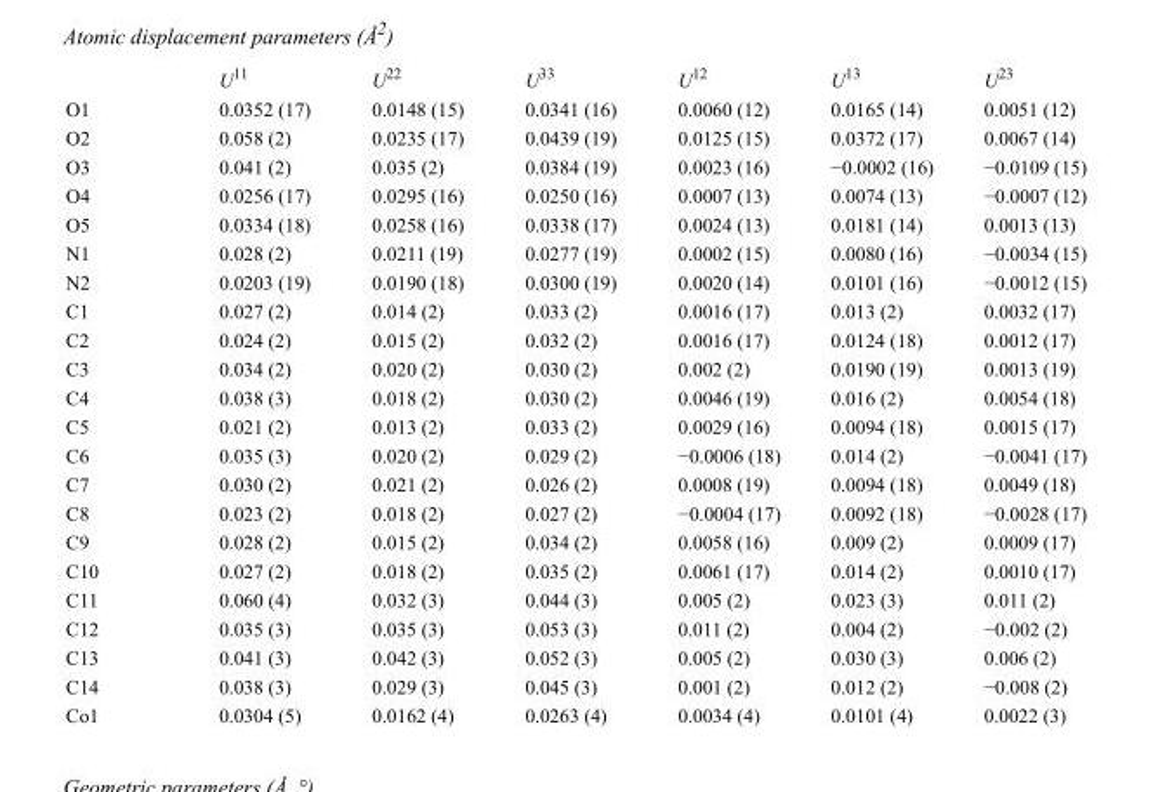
<table><thead><tr><td></td><td>U<sup>11</sup></td><td>U<sup>22</sup></td><td>U<sup>33</sup></td><td>U<sup>12</sup></td><td>U<sup>13</sup></td><td>U<sup>23</sup></td></tr></thead><tbody><tr><td>O1</td><td>0.0352 (17)</td><td>0.0148 (15)</td><td>0.0341 (16)</td><td>0.0060 (12)</td><td>0.0165 (14)</td><td>0.0051 (12)</td></tr><tr><td>O2</td><td>0.058 (2)</td><td>0.0235 (17)</td><td>0.0439 (19)</td><td>0.0125 (15)</td><td>0.0372 (17)</td><td>0.0067 (14)</td></tr><tr><td>O3</td><td>0.041 (2)</td><td>0.035 (2)</td><td>0.0384 (19)</td><td>0.0023 (16)</td><td>−0.0002 (16)</td><td>−0.0109 (15)</td></tr><tr><td>O4</td><td>0.0256 (17)</td><td>0.0295 (16)</td><td>0.0250 (16)</td><td>0.0007 (13)</td><td>0.0074 (13)</td><td>−0.0007 (12)</td></tr><tr><td>O5</td><td>0.0334 (18)</td><td>0.0258 (16)</td><td>0.0338 (17)</td><td>0.0024 (13)</td><td>0.0181 (14)</td><td>0.0013 (13)</td></tr><tr><td>N1</td><td>0.028 (2)</td><td>0.0211 (19)</td><td>0.0277 (19)</td><td>0.0002 (15)</td><td>0.0080 (16)</td><td>−0.0034 (15)</td></tr><tr><td>N2</td><td>0.0203 (19)</td><td>0.0190 (18)</td><td>0.0300 (19)</td><td>0.0020 (14)</td><td>0.0101 (16)</td><td>−0.0012 (15)</td></tr><tr><td>C1</td><td>0.027 (2)</td><td>0.014 (2)</td><td>0.033 (2)</td><td>0.0016 (17)</td><td>0.013 (2)</td><td>0.0032 (17)</td></tr><tr><td>C2</td><td>0.024 (2)</td><td>0.015 (2)</td><td>0.032 (2)</td><td>0.0016 (17)</td><td>0.0124 (18)</td><td>0.0012 (17)</td></tr><tr><td>C3</td><td>0.034 (2)</td><td>0.020 (2)</td><td>0.030 (2)</td><td>0.002 (2)</td><td>0.0190 (19)</td><td>0.0013 (19)</td></tr><tr><td>C4</td><td>0.038 (3)</td><td>0.018 (2)</td><td>0.030 (2)</td><td>0.0046 (19)</td><td>0.016 (2)</td><td>0.0054 (18)</td></tr><tr><td>C5</td><td>0.021 (2)</td><td>0.013 (2)</td><td>0.033 (2)</td><td>0.0029 (16)</td><td>0.0094 (18)</td><td>0.0015 (17)</td></tr><tr><td>C6</td><td>0.035 (3)</td><td>0.020 (2)</td><td>0.029 (2)</td><td>−0.0006 (18)</td><td>0.014 (2)</td><td>−0.0041 (17)</td></tr><tr><td>C7</td><td>0.030 (2)</td><td>0.021 (2)</td><td>0.026 (2)</td><td>0.0008 (19)</td><td>0.0094 (18)</td><td>0.0049 (18)</td></tr><tr><td>C8</td><td>0.023 (2)</td><td>0.018 (2)</td><td>0.027 (2)</td><td>−0.0004 (17)</td><td>0.0092 (18)</td><td>−0.0028 (17)</td></tr><tr><td>C9</td><td>0.028 (2)</td><td>0.015 (2)</td><td>0.034 (2)</td><td>0.0058 (16)</td><td>0.009 (2)</td><td>0.0009 (17)</td></tr><tr><td>C10</td><td>0.027 (2)</td><td>0.018 (2)</td><td>0.035 (2)</td><td>0.0061 (17)</td><td>0.014 (2)</td><td>0.0010 (17)</td></tr><tr><td>C11</td><td>0.060 (4)</td><td>0.032 (3)</td><td>0.044 (3)</td><td>0.005 (2)</td><td>0.023 (3)</td><td>0.011 (2)</td></tr><tr><td>C12</td><td>0.035 (3)</td><td>0.035 (3)</td><td>0.053 (3)</td><td>0.011 (2)</td><td>0.004 (2)</td><td>−0.002 (2)</td></tr><tr><td>C13</td><td>0.041 (3)</td><td>0.042 (3)</td><td>0.052 (3)</td><td>0.005 (2)</td><td>0.030 (3)</td><td>0.006 (2)</td></tr><tr><td>C14</td><td>0.038 (3)</td><td>0.029 (3)</td><td>0.045 (3)</td><td>0.001 (2)</td><td>0.012 (2)</td><td>−0.008 (2)</td></tr><tr><td>Co1</td><td>0.0304 (5)</td><td>0.0162 (4)</td><td>0.0263 (4)</td><td>0.0034 (4)</td><td>0.0101 (4)</td><td>0.0022 (3)</td></tr></tbody></table>